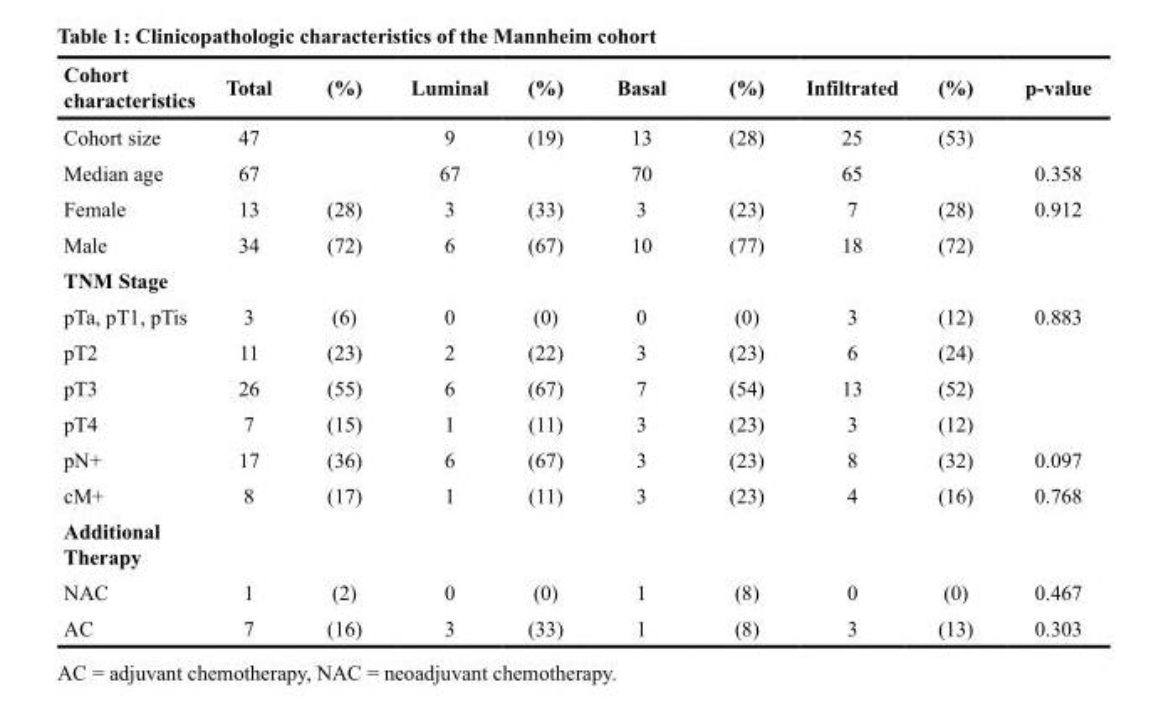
<table><thead><tr><td>Cohort characteristics</td><td>Total</td><td>(%)</td><td>Luminal</td><td>(%)</td><td>Basal</td><td>(%)</td><td>Infiltrated</td><td>(%)</td><td>p-value</td></tr></thead><tbody><tr><td>Cohort size</td><td>47</td><td></td><td>9</td><td>(19)</td><td>13</td><td>(28)</td><td>25</td><td>(53)</td><td></td></tr><tr><td>Median age</td><td>67</td><td></td><td>67</td><td></td><td>70</td><td></td><td>65</td><td></td><td>0.358</td></tr><tr><td>Female</td><td>13</td><td>(28)</td><td>3</td><td>(33)</td><td>3</td><td>(23)</td><td>7</td><td>(28)</td><td>0.912</td></tr><tr><td>Male</td><td>34</td><td>(72)</td><td>6</td><td>(67)</td><td>10</td><td>(77)</td><td>18</td><td>(72)</td><td></td></tr><tr><td colspan="10">TNM Stage</td></tr><tr><td>pTa, pT1, pTis</td><td>3</td><td>(6)</td><td>0</td><td>(0)</td><td>0</td><td>(0)</td><td>3</td><td>(12)</td><td>0.883</td></tr><tr><td>pT2</td><td>11</td><td>(23)</td><td>2</td><td>(22)</td><td>3</td><td>(23)</td><td>6</td><td>(24)</td><td></td></tr><tr><td>pT3</td><td>26</td><td>(55)</td><td>6</td><td>(67)</td><td>7</td><td>(54)</td><td>13</td><td>(52)</td><td></td></tr><tr><td>pT4</td><td>7</td><td>(15)</td><td>1</td><td>(11)</td><td>3</td><td>(23)</td><td>3</td><td>(12)</td><td></td></tr><tr><td>pN+</td><td>17</td><td>(36)</td><td>6</td><td>(67)</td><td>3</td><td>(23)</td><td>8</td><td>(32)</td><td>0.097</td></tr><tr><td>cM+</td><td>8</td><td>(17)</td><td>1</td><td>(11)</td><td>3</td><td>(23)</td><td>4</td><td>(16)</td><td>0.768</td></tr><tr><td colspan="10">Additional Therapy</td></tr><tr><td>NAC</td><td>1</td><td>(2)</td><td>0</td><td>(0)</td><td>1</td><td>(8)</td><td>0</td><td>(0)</td><td>0.467</td></tr><tr><td>AC</td><td>7</td><td>(16)</td><td>3</td><td>(33)</td><td>1</td><td>(8)</td><td>3</td><td>(13)</td><td>0.303</td></tr></tbody></table>